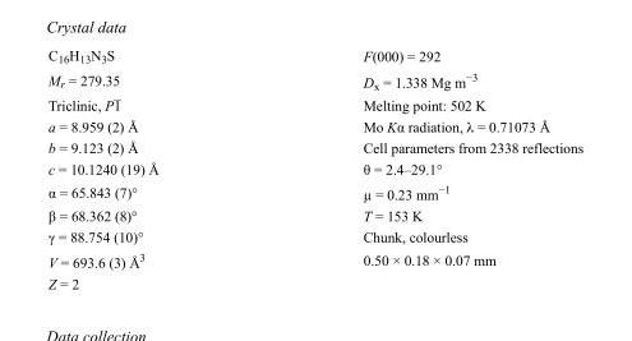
<table><tbody><tr><td>C<sub>16</sub>H<sub>13</sub>N<sub>3</sub>S</td><td>F(000) = 292</td></tr><tr><td>M<sub>r</sub> = 279.35</td><td>D<sub>x</sub> = 1.338 Mg m<sup>−3</sup></td></tr><tr><td>Triclinic, P1</td><td>Melting point: 502 K</td></tr><tr><td>a = 8.959 (2) Å</td><td>Mo Kα radiation, λ = 0.71073 Å</td></tr><tr><td>b = 9.123 (2) Å</td><td>Cell parameters from 2338 reflections</td></tr><tr><td>c = 10.1240 (19) Å</td><td>θ = 2.4–29.1°</td></tr><tr><td>α = 65.843 (7)°</td><td>µ = 0.23 mm<sup>−1</sup></td></tr><tr><td>β = 68.362 (8)°</td><td>T = 153 K</td></tr><tr><td>γ = 88.754 (10)°</td><td>Chunk, colourless</td></tr><tr><td>V = 693.6 (3) Å<sup>3</sup></td><td>0.50 × 0.18 × 0.07 mm</td></tr><tr><td>Z = 2</td><td></td></tr></tbody></table>